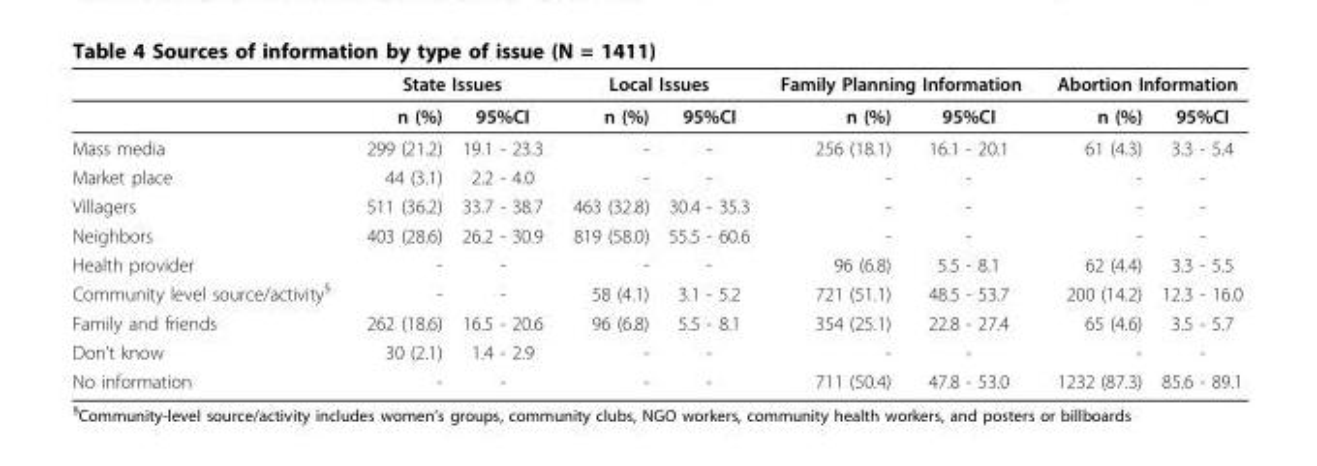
<table><thead><tr><td rowspan="2"></td><td colspan="2">State Issues</td><td colspan="2">Local Issues</td><td colspan="2">Family Planning Information</td><td colspan="2">Abortion Information</td></tr><tr><td>n (%)</td><td>95%CI</td><td>n (%)</td><td>95%CI</td><td>n (%)</td><td>95%CI</td><td>n (%)</td><td>95%CI</td></tr></thead><tbody><tr><td>Mass media</td><td>299 (21.2)</td><td>19.1 - 23.3</td><td>-</td><td>-</td><td>256 (18.1)</td><td>16.1 - 20.1</td><td>61 (4.3)</td><td>3.3 - 5.4</td></tr><tr><td>Market place</td><td>44 (3.1)</td><td>2.2 - 4.0</td><td>-</td><td>-</td><td>-</td><td>-</td><td>-</td><td>-</td></tr><tr><td>Villagers</td><td>511 (36.2)</td><td>33.7 - 38.7</td><td>463 (32.8)</td><td>30.4 - 35.3</td><td>-</td><td>-</td><td>-</td><td>-</td></tr><tr><td>Neighbors</td><td>403 (28.6)</td><td>26.2 - 30.9</td><td>819 (58.0)</td><td>55.5 - 60.6</td><td>-</td><td>-</td><td>-</td><td>-</td></tr><tr><td>Health provider</td><td>-</td><td>-</td><td>-</td><td>-</td><td>96 (6.8)</td><td>5.5 - 8.1</td><td>62 (4.4)</td><td>3.3 - 5.5</td></tr><tr><td>Community level source/activity<sup>§</sup></td><td>-</td><td>-</td><td>58 (4.1)</td><td>3.1 - 5.2</td><td>721 (51.1)</td><td>48.5 - 53.7</td><td>200 (14.2)</td><td>12.3 - 16.0</td></tr><tr><td>Family and friends</td><td>262 (18.6)</td><td>16.5 - 20.6</td><td>96 (6.8)</td><td>5.5 - 8.1</td><td>354 (25.1)</td><td>22.8 - 27.4</td><td>65 (4.6)</td><td>3.5 - 5.7</td></tr><tr><td>Don’t know</td><td>30 (2.1)</td><td>1.4 - 2.9</td><td>-</td><td>-</td><td>-</td><td>-</td><td>-</td><td>-</td></tr><tr><td>No information</td><td>-</td><td>-</td><td>-</td><td>-</td><td>711 (50.4)</td><td>47.8 - 53.0</td><td>1232 (87.3)</td><td>85.6 - 89.1</td></tr></tbody></table>